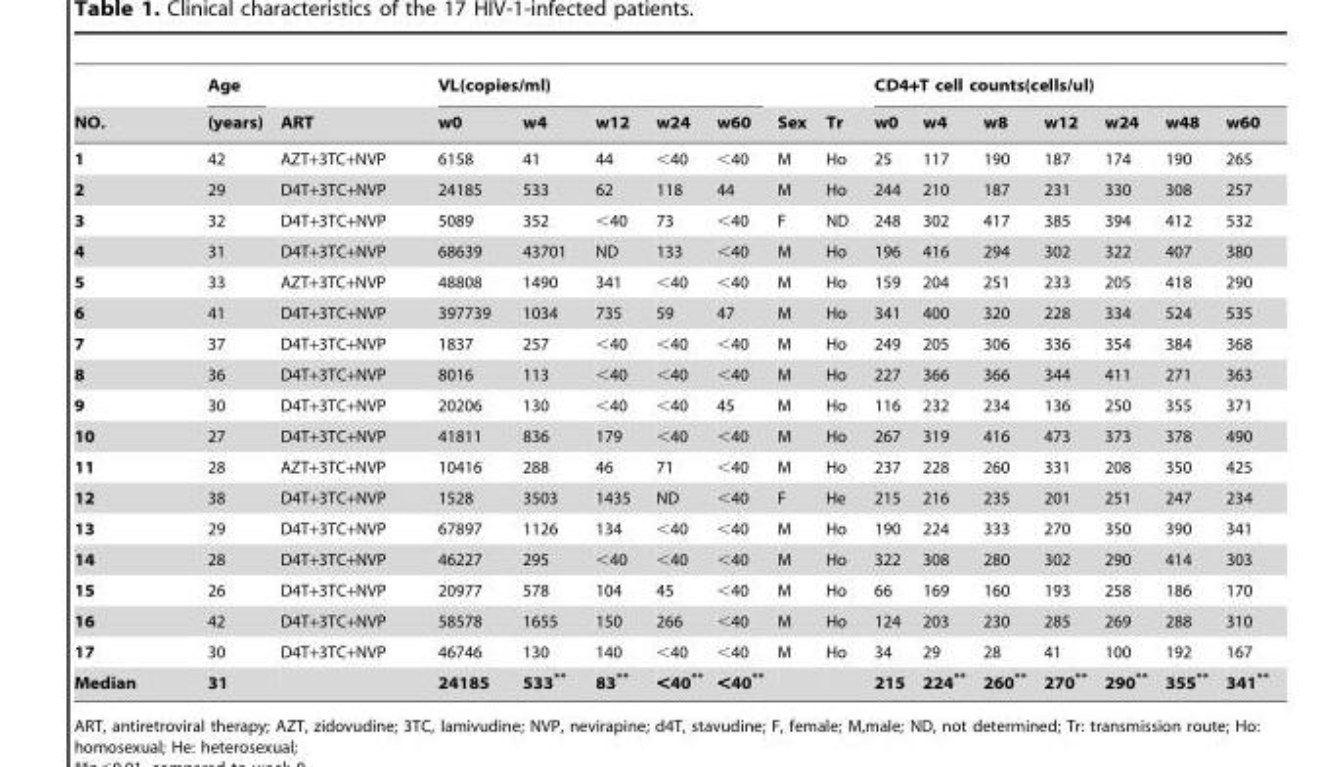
<table><thead><tr><td rowspan="2">NO.</td><td rowspan="2">Age (years)</td><td rowspan="2">ART</td><td colspan="5">VL(copies/ml)</td><td rowspan="2">Sex</td><td rowspan="2">Tr</td><td colspan="7">CD4+T cell counts(cells/ul)</td></tr><tr><td>w0</td><td>w4</td><td>w12</td><td>w24</td><td>w60</td><td>w0</td><td>w4</td><td>w8</td><td>w12</td><td>w24</td><td>w48</td><td>w60</td></tr></thead><tbody><tr><td>1</td><td>42</td><td>AZT+3TC+NVP</td><td>6158</td><td>41</td><td>44</td><td>&lt;40</td><td>&lt;40</td><td>M</td><td>Ho</td><td>25</td><td>117</td><td>190</td><td>187</td><td>174</td><td>190</td><td>265</td></tr><tr><td>2</td><td>29</td><td>D4T+3TC+NVP</td><td>24185</td><td>533</td><td>62</td><td>118</td><td>44</td><td>M</td><td>Ho</td><td>244</td><td>210</td><td>187</td><td>231</td><td>330</td><td>308</td><td>257</td></tr><tr><td>3</td><td>32</td><td>D4T+3TC+NVP</td><td>5089</td><td>352</td><td>&lt;40</td><td>73</td><td>&lt;40</td><td>F</td><td>ND</td><td>248</td><td>302</td><td>417</td><td>385</td><td>394</td><td>412</td><td>532</td></tr><tr><td>4</td><td>31</td><td>D4T+3TC+NVP</td><td>68639</td><td>43701</td><td>ND</td><td>133</td><td>&lt;40</td><td>M</td><td>Ho</td><td>196</td><td>416</td><td>294</td><td>302</td><td>322</td><td>407</td><td>380</td></tr><tr><td>5</td><td>33</td><td>AZT+3TC+NVP</td><td>48808</td><td>1490</td><td>341</td><td>&lt;40</td><td>&lt;40</td><td>M</td><td>Ho</td><td>159</td><td>204</td><td>251</td><td>233</td><td>205</td><td>418</td><td>290</td></tr><tr><td>6</td><td>41</td><td>D4T+3TC+NVP</td><td>397739</td><td>1034</td><td>735</td><td>59</td><td>47</td><td>M</td><td>Ho</td><td>341</td><td>400</td><td>320</td><td>228</td><td>334</td><td>524</td><td>535</td></tr><tr><td>7</td><td>37</td><td>D4T+3TC+NVP</td><td>1837</td><td>257</td><td>&lt;40</td><td>&lt;40</td><td>&lt;40</td><td>M</td><td>Ho</td><td>249</td><td>205</td><td>306</td><td>336</td><td>354</td><td>384</td><td>368</td></tr><tr><td>8</td><td>36</td><td>D4T+3TC+NVP</td><td>8016</td><td>113</td><td>&lt;40</td><td>&lt;40</td><td>&lt;40</td><td>M</td><td>Ho</td><td>227</td><td>366</td><td>366</td><td>344</td><td>411</td><td>271</td><td>363</td></tr><tr><td>9</td><td>30</td><td>D4T+3TC+NVP</td><td>20206</td><td>130</td><td>&lt;40</td><td>&lt;40</td><td>45</td><td>M</td><td>Ho</td><td>116</td><td>232</td><td>234</td><td>136</td><td>250</td><td>355</td><td>371</td></tr><tr><td>10</td><td>27</td><td>D4T+3TC+NVP</td><td>41811</td><td>836</td><td>179</td><td>&lt;40</td><td>&lt;40</td><td>M</td><td>Ho</td><td>267</td><td>319</td><td>416</td><td>473</td><td>373</td><td>378</td><td>490</td></tr><tr><td>11</td><td>28</td><td>AZT+3TC+NVP</td><td>10416</td><td>288</td><td>46</td><td>71</td><td>&lt;40</td><td>M</td><td>Ho</td><td>237</td><td>228</td><td>260</td><td>331</td><td>208</td><td>350</td><td>425</td></tr><tr><td>12</td><td>38</td><td>D4T+3TC+NVP</td><td>1528</td><td>3503</td><td>1435</td><td>ND</td><td>&lt;40</td><td>F</td><td>He</td><td>215</td><td>216</td><td>235</td><td>201</td><td>251</td><td>247</td><td>234</td></tr><tr><td>13</td><td>29</td><td>D4T+3TC+NVP</td><td>67897</td><td>1126</td><td>134</td><td>&lt;40</td><td>&lt;40</td><td>M</td><td>Ho</td><td>190</td><td>224</td><td>333</td><td>270</td><td>350</td><td>390</td><td>341</td></tr><tr><td>14</td><td>28</td><td>D4T+3TC+NVP</td><td>46227</td><td>295</td><td>&lt;40</td><td>&lt;40</td><td>&lt;40</td><td>M</td><td>Ho</td><td>322</td><td>308</td><td>280</td><td>302</td><td>290</td><td>414</td><td>303</td></tr><tr><td>15</td><td>26</td><td>D4T+3TC+NVP</td><td>20977</td><td>578</td><td>104</td><td>45</td><td>&lt;40</td><td>M</td><td>Ho</td><td>66</td><td>169</td><td>160</td><td>193</td><td>258</td><td>186</td><td>170</td></tr><tr><td>16</td><td>42</td><td>D4T+3TC+NVP</td><td>58578</td><td>1655</td><td>150</td><td>266</td><td>&lt;40</td><td>M</td><td>Ho</td><td>124</td><td>203</td><td>230</td><td>285</td><td>269</td><td>288</td><td>310</td></tr><tr><td>17</td><td>30</td><td>D4T+3TC+NVP</td><td>46746</td><td>130</td><td>140</td><td>&lt;40</td><td>&lt;40</td><td>M</td><td>Ho</td><td>34</td><td>29</td><td>28</td><td>41</td><td>100</td><td>192</td><td>167</td></tr><tr><td>Median</td><td>31</td><td></td><td>24185</td><td>533**</td><td>83**</td><td>&lt;40**</td><td>&lt;40**</td><td></td><td></td><td>215</td><td>224**</td><td>260**</td><td>270**</td><td>290**</td><td>355**</td><td>341**</td></tr></tbody></table>